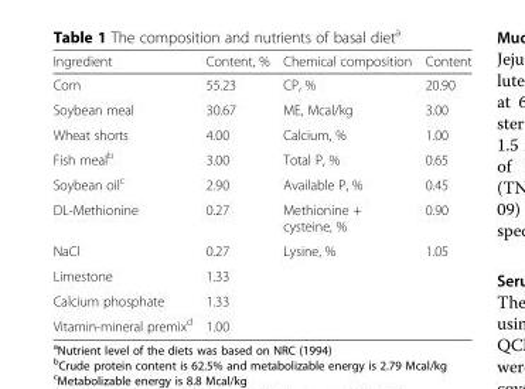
<table><thead><tr><td>Ingredient</td><td>Content, %</td><td>Chemical composition</td><td>Content</td></tr></thead><tbody><tr><td>Corn</td><td>55.23</td><td>CP, %</td><td>20.90</td></tr><tr><td>Soybean meal</td><td>30.67</td><td>ME, Mcal/kg</td><td>3.00</td></tr><tr><td>Wheat shorts</td><td>4.00</td><td>Calcium, %</td><td>1.00</td></tr><tr><td>Fish meal<sup>b</sup></td><td>3.00</td><td>Total P, %</td><td>0.65</td></tr><tr><td>Soybean oil<sup>c</sup></td><td>2.90</td><td>Available P, %</td><td>0.45</td></tr><tr><td>DL-Methionine</td><td>0.27</td><td>Methionine + cysteine, %</td><td>0.90</td></tr><tr><td>NaCl</td><td>0.27</td><td>Lysine, %</td><td>1.05</td></tr><tr><td>Limestone</td><td>1.33</td><td></td><td></td></tr><tr><td>Calcium phosphate</td><td>1.33</td><td></td><td></td></tr><tr><td>Vitamin-mineral premix<sup>d</sup></td><td>1.00</td><td></td><td></td></tr></tbody></table>